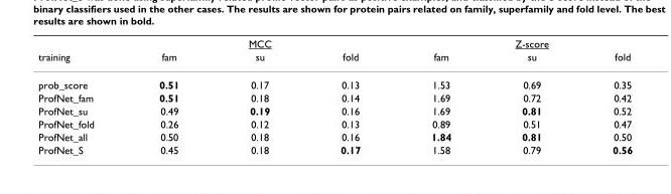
<table><thead><tr><td rowspan="2">training</td><td colspan="3">MCC</td><td colspan="3">Z-score</td></tr><tr><td>fam</td><td>su</td><td>fold</td><td>fam</td><td>su</td><td>fold</td></tr></thead><tbody><tr><td>prob_score</td><td>0.51</td><td>0.17</td><td>0.13</td><td>1.53</td><td>0.69</td><td>0.35</td></tr><tr><td>ProfNet_fam</td><td>0.51</td><td>0.18</td><td>0.14</td><td>1.69</td><td>0.72</td><td>0.42</td></tr><tr><td>ProfNet_su</td><td>0.49</td><td>0.19</td><td>0.16</td><td>1.69</td><td>0.81</td><td>0.52</td></tr><tr><td>ProfNet_fold</td><td>0.26</td><td>0.12</td><td>0.13</td><td>0.89</td><td>0.51</td><td>0.47</td></tr><tr><td>ProfNet_all</td><td>0.50</td><td>0.18</td><td>0.16</td><td>1.84</td><td>0.81</td><td>0.50</td></tr><tr><td>ProfNet_S</td><td>0.45</td><td>0.18</td><td>0.17</td><td>1.58</td><td>0.79</td><td>0.56</td></tr></tbody></table>